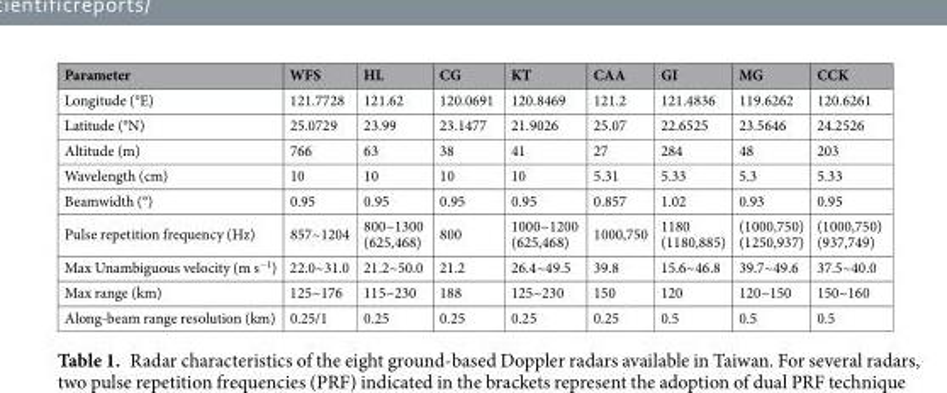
<table><thead><tr><td>Parameter</td><td>WFS</td><td>HL</td><td>CG</td><td>KT</td><td>CAA</td><td>GI</td><td>MG</td><td>CCK</td></tr></thead><tbody><tr><td>Longitude (°E)</td><td>121.7728</td><td>121.62</td><td>120.0691</td><td>120.8469</td><td>121.2</td><td>121.4836</td><td>119.6262</td><td>120.6261</td></tr><tr><td>Latitude (°N)</td><td>25.0729</td><td>23.99</td><td>23.1477</td><td>21.9026</td><td>25.07</td><td>22.6525</td><td>23.5646</td><td>24.2526</td></tr><tr><td>Altitude (m)</td><td>766</td><td>63</td><td>38</td><td>41</td><td>27</td><td>284</td><td>48</td><td>203</td></tr><tr><td>Wavelength (cm)</td><td>10</td><td>10</td><td>10</td><td>10</td><td>5.31</td><td>5.33</td><td>5.3</td><td>5.33</td></tr><tr><td>Beamwidth (°)</td><td>0.95</td><td>0.95</td><td>0.95</td><td>0.95</td><td>0.857</td><td>1.02</td><td>0.93</td><td>0.95</td></tr><tr><td>Pulse repetition frequency (Hz)</td><td>857~1204</td><td>800~1300 (625,468)</td><td>800</td><td>1000~1200 (625,468)</td><td>1000,750</td><td>1180 (1180,885)</td><td>(1000,750) (1250,937)</td><td>(1000,750) (937,749)</td></tr><tr><td>Max Unambiguous velocity (m s<sup>−1</sup>)</td><td>22.0~31.0</td><td>21.2~50.0</td><td>21.2</td><td>26.4~49.5</td><td>39.8</td><td>15.6~46.8</td><td>39.7~49.6</td><td>37.5~40.0</td></tr><tr><td>Max range (km)</td><td>125~176</td><td>115~230</td><td>188</td><td>125~230</td><td>150</td><td>120</td><td>120~150</td><td>150~160</td></tr><tr><td>Along-beam range resolution (km)</td><td>0.25/1</td><td>0.25</td><td>0.25</td><td>0.25</td><td>0.25</td><td>0.5</td><td>0.5</td><td>0.5</td></tr></tbody></table>